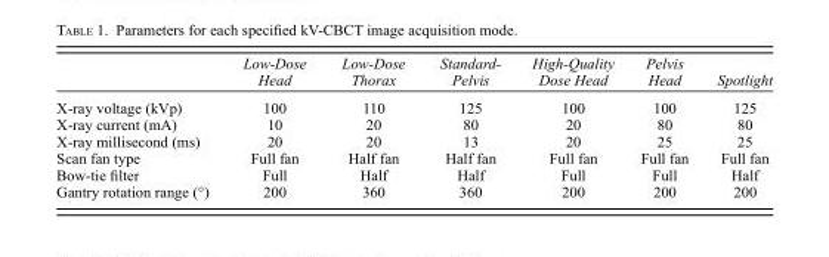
<table><thead><tr><td></td><td>Low-Dose Head</td><td>Low-Dose Thorax</td><td>Standard- Pelvis</td><td>High-Quality Dose Head</td><td>Pelvis Head</td><td>Spotlight</td></tr></thead><tbody><tr><td>X-ray voltage (kVp)</td><td>100</td><td>110</td><td>125</td><td>100</td><td>100</td><td>125</td></tr><tr><td>X-ray current (mA)</td><td>10</td><td>20</td><td>80</td><td>20</td><td>80</td><td>80</td></tr><tr><td>X-ray millisecond (ms)</td><td>20</td><td>20</td><td>13</td><td>20</td><td>25</td><td>25</td></tr><tr><td>Scan fan type</td><td>Full fan</td><td>Half fan</td><td>Half fan</td><td>Full fan</td><td>Full fan</td><td>Full fan</td></tr><tr><td>Bow-tie filter</td><td>Full</td><td>Half</td><td>Half</td><td>Full</td><td>Full</td><td>Half</td></tr><tr><td>Gantry rotation range (°)</td><td>200</td><td>360</td><td>360</td><td>200</td><td>200</td><td>200</td></tr></tbody></table>